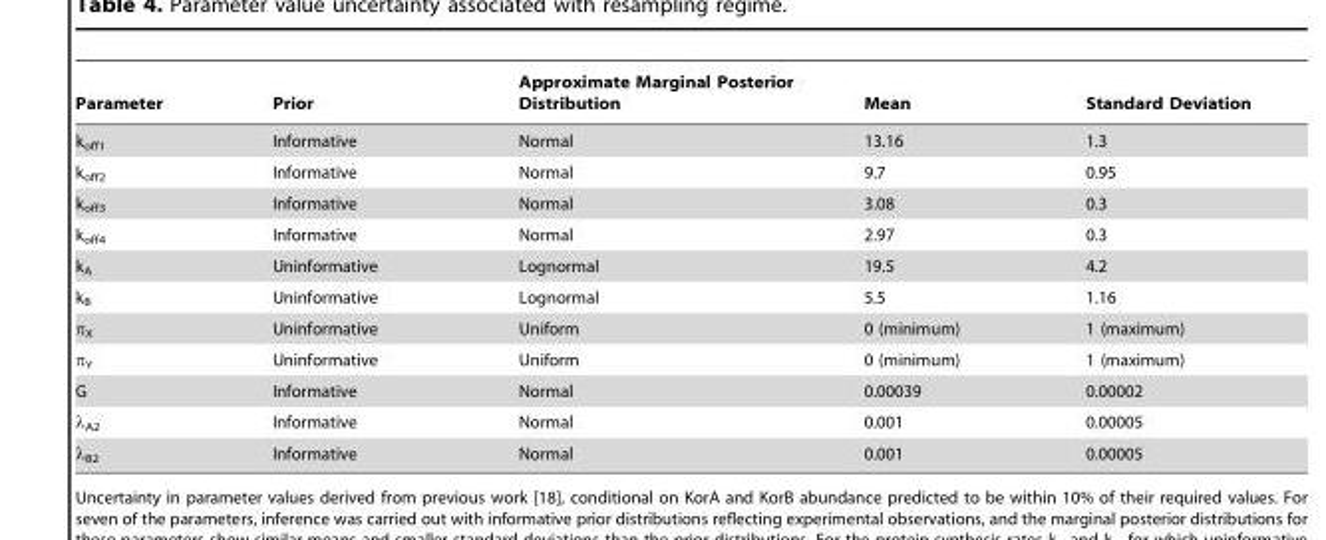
<table><thead><tr><td>Parameter</td><td>Prior</td><td>Approximate Marginal Posterior Distribution</td><td>Mean</td><td>Standard Deviation</td></tr></thead><tbody><tr><td>k<sub>off1</sub></td><td>Informative</td><td>Normal</td><td>13.16</td><td>1.3</td></tr><tr><td>k<sub>off2</sub></td><td>Informative</td><td>Normal</td><td>9.7</td><td>0.95</td></tr><tr><td>k<sub>off3</sub></td><td>Informative</td><td>Normal</td><td>3.08</td><td>0.3</td></tr><tr><td>k<sub>off4</sub></td><td>Informative</td><td>Normal</td><td>2.97</td><td>0.3</td></tr><tr><td>k<sub>A</sub></td><td>Uninformative</td><td>Lognormal</td><td>19.5</td><td>4.2</td></tr><tr><td>k<sub>B</sub></td><td>Uninformative</td><td>Lognormal</td><td>5.5</td><td>1.16</td></tr><tr><td>π<sub>X</sub></td><td>Uninformative</td><td>Uniform</td><td>0 (minimum)</td><td>1 (maximum)</td></tr><tr><td>π<sub>Y</sub></td><td>Uninformative</td><td>Uniform</td><td>0 (minimum)</td><td>1 (maximum)</td></tr><tr><td>G</td><td>Informative</td><td>Normal</td><td>0.00039</td><td>0.00002</td></tr><tr><td>λ<sub>A2</sub></td><td>Informative</td><td>Normal</td><td>0.001</td><td>0.00005</td></tr><tr><td>λ<sub>B2</sub></td><td>Informative</td><td>Normal</td><td>0.001</td><td>0.00005</td></tr></tbody></table>